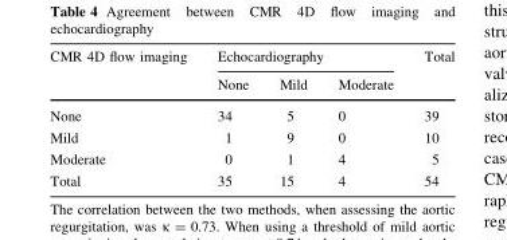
<table><thead><tr><td rowspan="2">CMR 4D flow imaging</td><td colspan="3">Echocardiography</td><td rowspan="2">Total</td></tr><tr><td>None</td><td>Mild</td><td>Moderate</td></tr></thead><tbody><tr><td>None</td><td>34</td><td>5</td><td>0</td><td>39</td></tr><tr><td>Mild</td><td>1</td><td>9</td><td>0</td><td>10</td></tr><tr><td>Moderate</td><td>0</td><td>1</td><td>4</td><td>5</td></tr><tr><td>Total</td><td>35</td><td>15</td><td>4</td><td>54</td></tr></tbody></table>